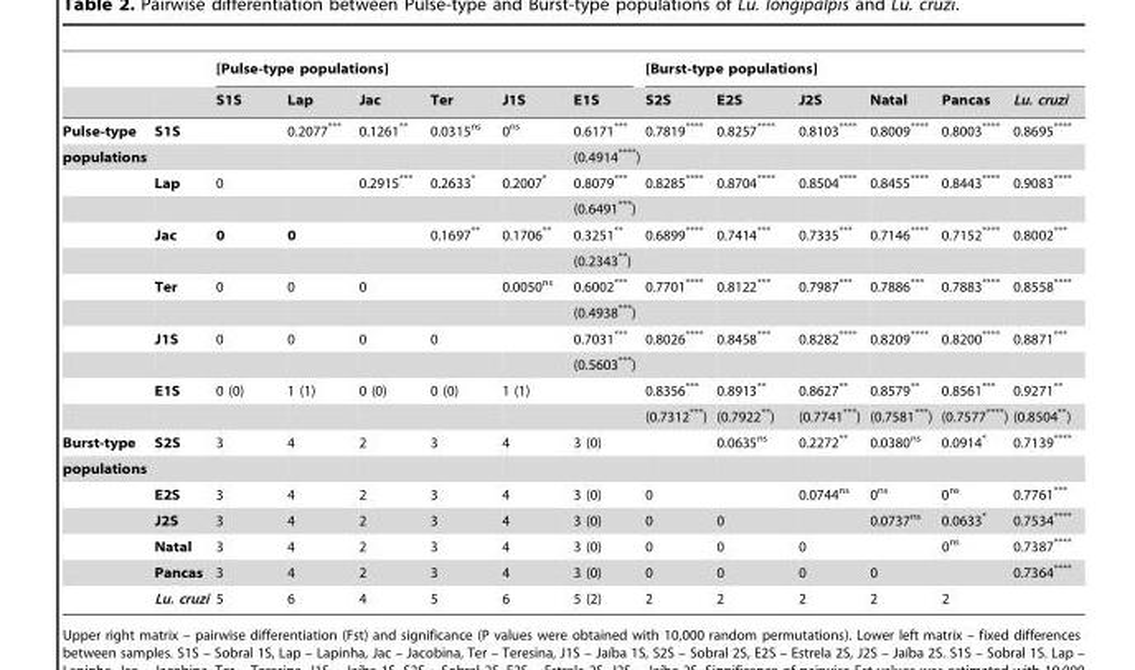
<table><thead><tr><td rowspan="2"></td><td rowspan="2"></td><td colspan="6">[Pulse-type populations]</td><td colspan="6">[Burst-type populations]</td></tr><tr><td>S1S</td><td>Lap</td><td>Jac</td><td>Ter</td><td>J1S</td><td>E1S</td><td>S2S</td><td>E2S</td><td>J2S</td><td>Natal</td><td>Pancas</td><td>Lu. cruzi</td></tr></thead><tbody><tr><td>Pulse-type</td><td>S1S</td><td></td><td>0.2077***</td><td>0.1261**</td><td>0.0315<sup>ns</sup></td><td>0<sup>ns</sup></td><td>0.6171***</td><td>0.7819****</td><td>0.8257****</td><td>0.8103****</td><td>0.8009****</td><td>0.8003****</td><td>0.8695****</td></tr><tr><td rowspan="11">populations</td><td></td><td></td><td></td><td></td><td></td><td></td><td>(0.4914****)</td><td></td><td></td><td></td><td></td><td></td><td></td></tr><tr><td>Lap</td><td>0</td><td></td><td>0.2915***</td><td>0.2633*</td><td>0.2007*</td><td>0.8079***</td><td>0.8285****</td><td>0.8704****</td><td>0.8504****</td><td>0.8455****</td><td>0.8443****</td><td>0.9083****</td></tr><tr><td></td><td></td><td></td><td></td><td></td><td></td><td>(0.6491***)</td><td></td><td></td><td></td><td></td><td></td><td></td></tr><tr><td>Jac</td><td>0</td><td>0</td><td></td><td>0.1697**</td><td>0.1706**</td><td>0.3251**</td><td>0.6899****</td><td>0.7414***</td><td>0.7335***</td><td>0.7146****</td><td>0.7152****</td><td>0.8002***</td></tr><tr><td></td><td></td><td></td><td></td><td></td><td></td><td>(0.2343**)</td><td></td><td></td><td></td><td></td><td></td><td></td></tr><tr><td>Ter</td><td>0</td><td>0</td><td>0</td><td></td><td>0.0050<sup>ns</sup></td><td>0.6002***</td><td>0.7701****</td><td>0.8122***</td><td>0.7987***</td><td>0.7886***</td><td>0.7883****</td><td>0.8558****</td></tr><tr><td></td><td></td><td></td><td></td><td></td><td></td><td>(0.4938***)</td><td></td><td></td><td></td><td></td><td></td><td></td></tr><tr><td>J1S</td><td>0</td><td>0</td><td>0</td><td>0</td><td></td><td>0.7031***</td><td>0.8026****</td><td>0.8458***</td><td>0.8282****</td><td>0.8209****</td><td>0.8200****</td><td>0.8871***</td></tr><tr><td></td><td></td><td></td><td></td><td></td><td></td><td>(0.5603***)</td><td></td><td></td><td></td><td></td><td></td><td></td></tr><tr><td>E1S</td><td>0 (0)</td><td>1 (1)</td><td>0 (0)</td><td>0 (0)</td><td>1 (1)</td><td></td><td>0.8356***</td><td>0.8913**</td><td>0.8627**</td><td>0.8579**</td><td>0.8561***</td><td>0.9271**</td></tr><tr><td></td><td></td><td></td><td></td><td></td><td></td><td></td><td>(0.7312***)</td><td>(0.7922**)</td><td>(0.7741***)</td><td>(0.7581***)</td><td>(0.7577****)</td><td>(0.8504**)</td></tr><tr><td>Burst-type</td><td>S2S</td><td>3</td><td>4</td><td>2</td><td>3</td><td>4</td><td>3 (0)</td><td></td><td>0.0635<sup>ns</sup></td><td>0.2272**</td><td>0.0380<sup>ns</sup></td><td>0.0914*</td><td>0.7139****</td></tr><tr><td colspan="14">populations</td></tr><tr><td></td><td>E2S</td><td>3</td><td>4</td><td>2</td><td>3</td><td>4</td><td>3 (0)</td><td>0</td><td></td><td>0.0744<sup>ns</sup></td><td>0<sup>ns</sup></td><td>0<sup>ns</sup></td><td>0.7761***</td></tr><tr><td></td><td>J2S</td><td>3</td><td>4</td><td>2</td><td>3</td><td>4</td><td>3 (0)</td><td>0</td><td>0</td><td></td><td>0.0737<sup>ns</sup></td><td>0.0633*</td><td>0.7534****</td></tr><tr><td></td><td>Natal</td><td>3</td><td>4</td><td>2</td><td>3</td><td>4</td><td>3 (0)</td><td>0</td><td>0</td><td>0</td><td></td><td>0<sup>ns</sup></td><td>0.7387****</td></tr><tr><td></td><td>Pancas</td><td>3</td><td>4</td><td>2</td><td>3</td><td>4</td><td>3 (0)</td><td>0</td><td>0</td><td>0</td><td>0</td><td></td><td>0.7364****</td></tr><tr><td></td><td>Lu. cruzi</td><td>5</td><td>6</td><td>4</td><td>5</td><td>6</td><td>5 (2)</td><td>2</td><td>2</td><td>2</td><td>2</td><td>2</td><td></td></tr></tbody></table>